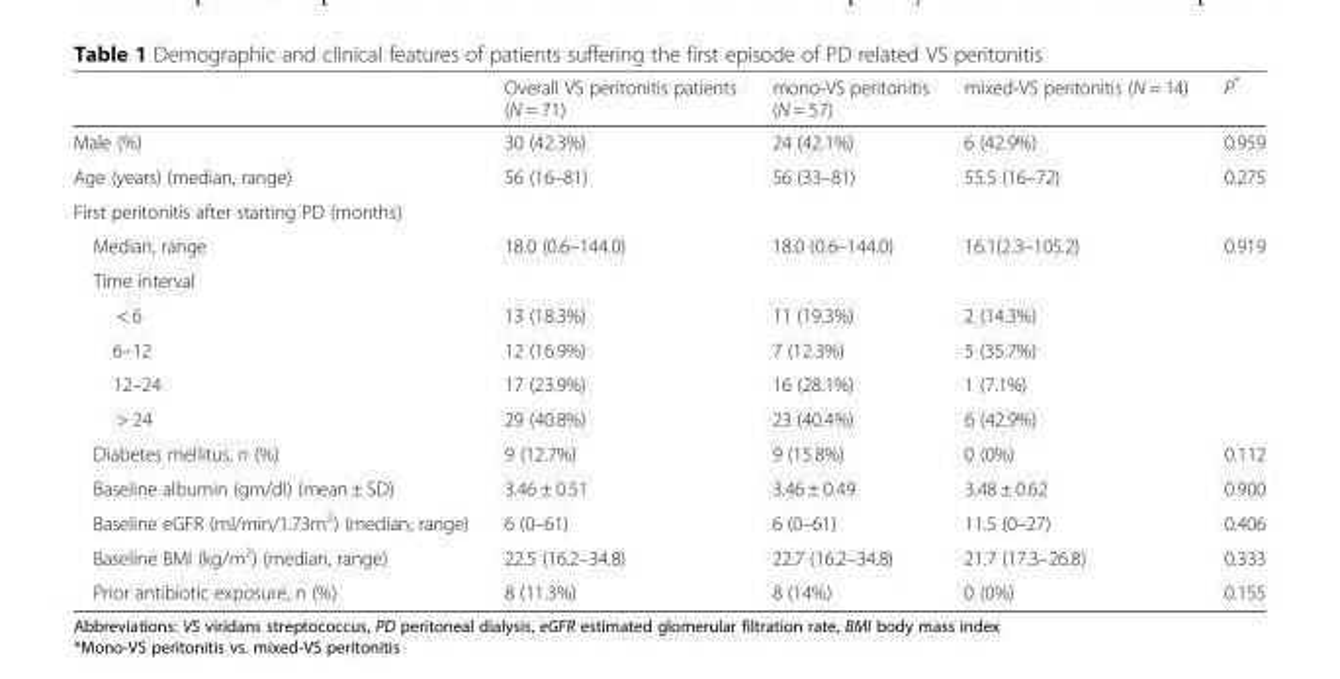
<table><thead><tr><td></td><td>Overall VS peritonitis patients (N = 71)</td><td>mono-VS peritonitis (N = 57)</td><td>mixed-VS peritonitis (N = 14)</td><td>P*</td></tr></thead><tbody><tr><td>Male (%)</td><td>30 (42.3%)</td><td>24 (42.1%)</td><td>6 (42.9%)</td><td>0.959</td></tr><tr><td>Age (years) (median, range)</td><td>56 (16–81)</td><td>56 (33–81)</td><td>55.5 (16–72)</td><td>0.275</td></tr><tr><td colspan="5">First peritonitis after starting PD (months)</td></tr><tr><td>Median, range</td><td>18.0 (0.6–144.0)</td><td>18.0 (0.6–144.0)</td><td>16.1(2.3–105.2)</td><td>0.919</td></tr><tr><td colspan="5">Time interval</td></tr><tr><td>&lt; 6</td><td>13 (18.3%)</td><td>11 (19.3%)</td><td>2 (14.3%)</td><td></td></tr><tr><td>6–12</td><td>12 (16.9%)</td><td>7 (12.3%)</td><td>5 (35.7%)</td><td></td></tr><tr><td>12–24</td><td>17 (23.9%)</td><td>16 (28.1%)</td><td>1 (7.1%)</td><td></td></tr><tr><td>&gt; 24</td><td>29 (40.8%)</td><td>23 (40.4%)</td><td>6 (42.9%)</td><td></td></tr><tr><td>Diabetes mellitus, n (%)</td><td>9 (12.7%)</td><td>9 (15.8%)</td><td>0 (0%)</td><td>0.112</td></tr><tr><td>Baseline albumin (gm/dl) (mean ± SD)</td><td>3.46 ± 0.51</td><td>3.46 ± 0.49</td><td>3.48 ± 0.62</td><td>0.900</td></tr><tr><td>Baseline eGFR (ml/min/1.73m<sup>2</sup>) (median, range)</td><td>6 (0–61)</td><td>6 (0–61)</td><td>11.5 (0–27)</td><td>0.406</td></tr><tr><td>Baseline BMI (kg/m<sup>2</sup>) (median, range)</td><td>22.5 (16.2–34.8)</td><td>22.7 (16.2–34.8)</td><td>21.7 (17.3–26.8)</td><td>0.333</td></tr><tr><td>Prior antibiotic exposure, n (%)</td><td>8 (11.3%)</td><td>8 (14%)</td><td>0 (0%)</td><td>0.155</td></tr></tbody></table>